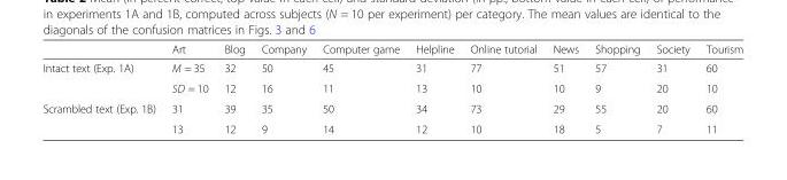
<table><thead><tr><td></td><td>Art</td><td>Blog</td><td>Company</td><td>Computer game</td><td>Helpline</td><td>Online tutorial</td><td>News</td><td>Shopping</td><td>Society</td><td>Tourism</td></tr></thead><tbody><tr><td rowspan="2">Intact text (Exp. 1A)</td><td>M = 35</td><td>32</td><td>50</td><td>45</td><td>31</td><td>77</td><td>51</td><td>57</td><td>31</td><td>60</td></tr><tr><td>SD = 10</td><td>12</td><td>16</td><td>11</td><td>13</td><td>10</td><td>10</td><td>9</td><td>20</td><td>10</td></tr><tr><td rowspan="2">Scrambled text (Exp. 1B)</td><td>31</td><td>39</td><td>35</td><td>50</td><td>34</td><td>73</td><td>29</td><td>55</td><td>20</td><td>60</td></tr><tr><td>13</td><td>12</td><td>9</td><td>14</td><td>12</td><td>10</td><td>18</td><td>5</td><td>7</td><td>11</td></tr></tbody></table>